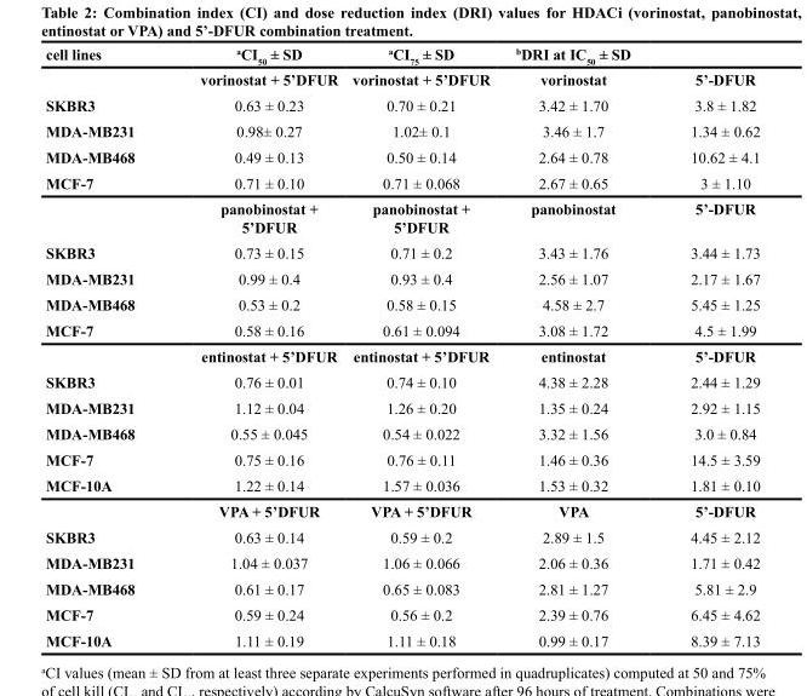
<table><thead><tr><td>cell lines</td><td><sup>a</sup>CI<sub>50</sub> ± SD</td><td><sup>a</sup>CI<sub>75</sub> ± SD</td><td><sup>b</sup>DRI at IC<sub>50</sub> ± SD</td><td></td></tr></thead><tbody><tr><td></td><td>vorinostat + 5’DFUR</td><td>vorinostat + 5’DFUR</td><td>vorinostat</td><td>5’-DFUR</td></tr><tr><td>SKBR3</td><td>0.63 ± 0.23</td><td>0.70 ± 0.21</td><td>3.42 ± 1.70</td><td>3.8 ± 1.82</td></tr><tr><td>MDA-MB231</td><td>0.98± 0.27</td><td>1.02± 0.1</td><td>3.46 ± 1.7</td><td>1.34 ± 0.62</td></tr><tr><td>MDA-MB468</td><td>0.49 ± 0.13</td><td>0.50 ± 0.14</td><td>2.64 ± 0.78</td><td>10.62 ± 4.1</td></tr><tr><td rowspan="2">MCF-7</td><td>0.71 ± 0.10</td><td>0.71 ± 0.068</td><td>2.67 ± 0.65</td><td>3 ± 1.10</td></tr><tr><td>panobinostat + 5’DFUR</td><td>panobinostat + 5’DFUR</td><td>panobinostat</td><td>5’-DFUR</td></tr><tr><td>SKBR3</td><td>0.73 ± 0.15</td><td>0.71 ± 0.2</td><td>3.43 ± 1.76</td><td>3.44 ± 1.73</td></tr><tr><td>MDA-MB231</td><td>0.99 ± 0.4</td><td>0.93 ± 0.4</td><td>2.56 ± 1.07</td><td>2.17 ± 1.67</td></tr><tr><td>MDA-MB468</td><td>0.53 ± 0.2</td><td>0.58 ± 0.15</td><td>4.58 ± 2.7</td><td>5.45 ± 1.25</td></tr><tr><td rowspan="2">MCF-7</td><td>0.58 ± 0.16</td><td>0.61 ± 0.094</td><td>3.08 ± 1.72</td><td>4.5 ± 1.99</td></tr><tr><td>entinostat + 5’DFUR</td><td>entinostat + 5’DFUR</td><td>entinostat</td><td>5’-DFUR</td></tr><tr><td>SKBR3</td><td>0.76 ± 0.01</td><td>0.74 ± 0.10</td><td>4.38 ± 2.28</td><td>2.44 ± 1.29</td></tr><tr><td>MDA-MB231</td><td>1.12 ± 0.04</td><td>1.26 ± 0.20</td><td>1.35 ± 0.24</td><td>2.92 ± 1.15</td></tr><tr><td>MDA-MB468</td><td>0.55 ± 0.045</td><td>0.54 ± 0.022</td><td>3.32 ± 1.56</td><td>3.0 ± 0.84</td></tr><tr><td>MCF-7</td><td>0.75 ± 0.16</td><td>0.76 ± 0.11</td><td>1.46 ± 0.36</td><td>14.5 ± 3.59</td></tr><tr><td rowspan="2">MCF-10A</td><td>1.22 ± 0.14</td><td>1.57 ± 0.036</td><td>1.53 ± 0.32</td><td>1.81 ± 0.10</td></tr><tr><td>VPA + 5’DFUR</td><td>VPA + 5’DFUR</td><td>VPA</td><td>5’-DFUR</td></tr><tr><td>SKBR3</td><td>0.63 ± 0.14</td><td>0.59 ± 0.2</td><td>2.89 ± 1.5</td><td>4.45 ± 2.12</td></tr><tr><td>MDA-MB231</td><td>1.04 ± 0.037</td><td>1.06 ± 0.066</td><td>2.06 ± 0.36</td><td>1.71 ± 0.42</td></tr><tr><td>MDA-MB468</td><td>0.61 ± 0.17</td><td>0.65 ± 0.083</td><td>2.81 ± 1.27</td><td>5.81 ± 2.9</td></tr><tr><td>MCF-7</td><td>0.59 ± 0.24</td><td>0.56 ± 0.2</td><td>2.39 ± 0.76</td><td>6.45 ± 4.62</td></tr><tr><td>MCF-10A</td><td>1.11 ± 0.19</td><td>1.11 ± 0.18</td><td>0.99 ± 0.17</td><td>8.39 ± 7.13</td></tr></tbody></table>